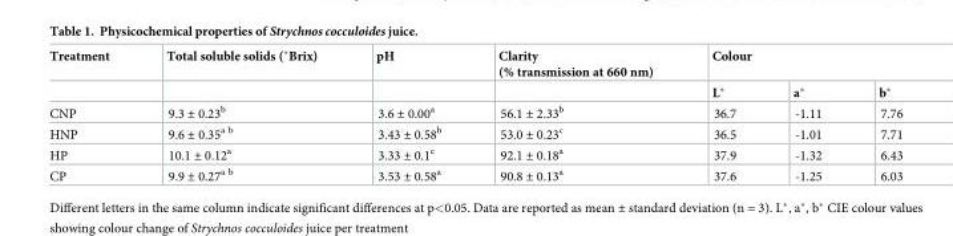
<table><thead><tr><td rowspan="2">Treatment</td><td rowspan="2">Total soluble solids (˚Brix)</td><td rowspan="2">pH</td><td rowspan="2">Clarity (% transmission at 660 nm)</td><td colspan="3">Colour</td></tr><tr><td>L*</td><td>a*</td><td>b*</td></tr></thead><tbody><tr><td>CNP</td><td>9.3 ± 0.23<sup>b</sup></td><td>3.6 ± 0.00<sup>a</sup></td><td>56.1 ± 2.33<sup>b</sup></td><td>36.7</td><td>-1.11</td><td>7.76</td></tr><tr><td>HNP</td><td>9.6 ± 0.35<sup>a b</sup></td><td>3.43 ± 0.58<sup>b</sup></td><td>53.0 ± 0.23<sup>c</sup></td><td>36.5</td><td>-1.01</td><td>7.71</td></tr><tr><td>HP</td><td>10.1 ± 0.12<sup>a</sup></td><td>3.33 ± 0.1<sup>c</sup></td><td>92.1 ± 0.18<sup>a</sup></td><td>37.9</td><td>-1.32</td><td>6.43</td></tr><tr><td>CP</td><td>9.9 ± 0.27<sup>a b</sup></td><td>3.53 ± 0.58<sup>a</sup></td><td>90.8 ± 0.13<sup>a</sup></td><td>37.6</td><td>-1.25</td><td>6.03</td></tr></tbody></table>